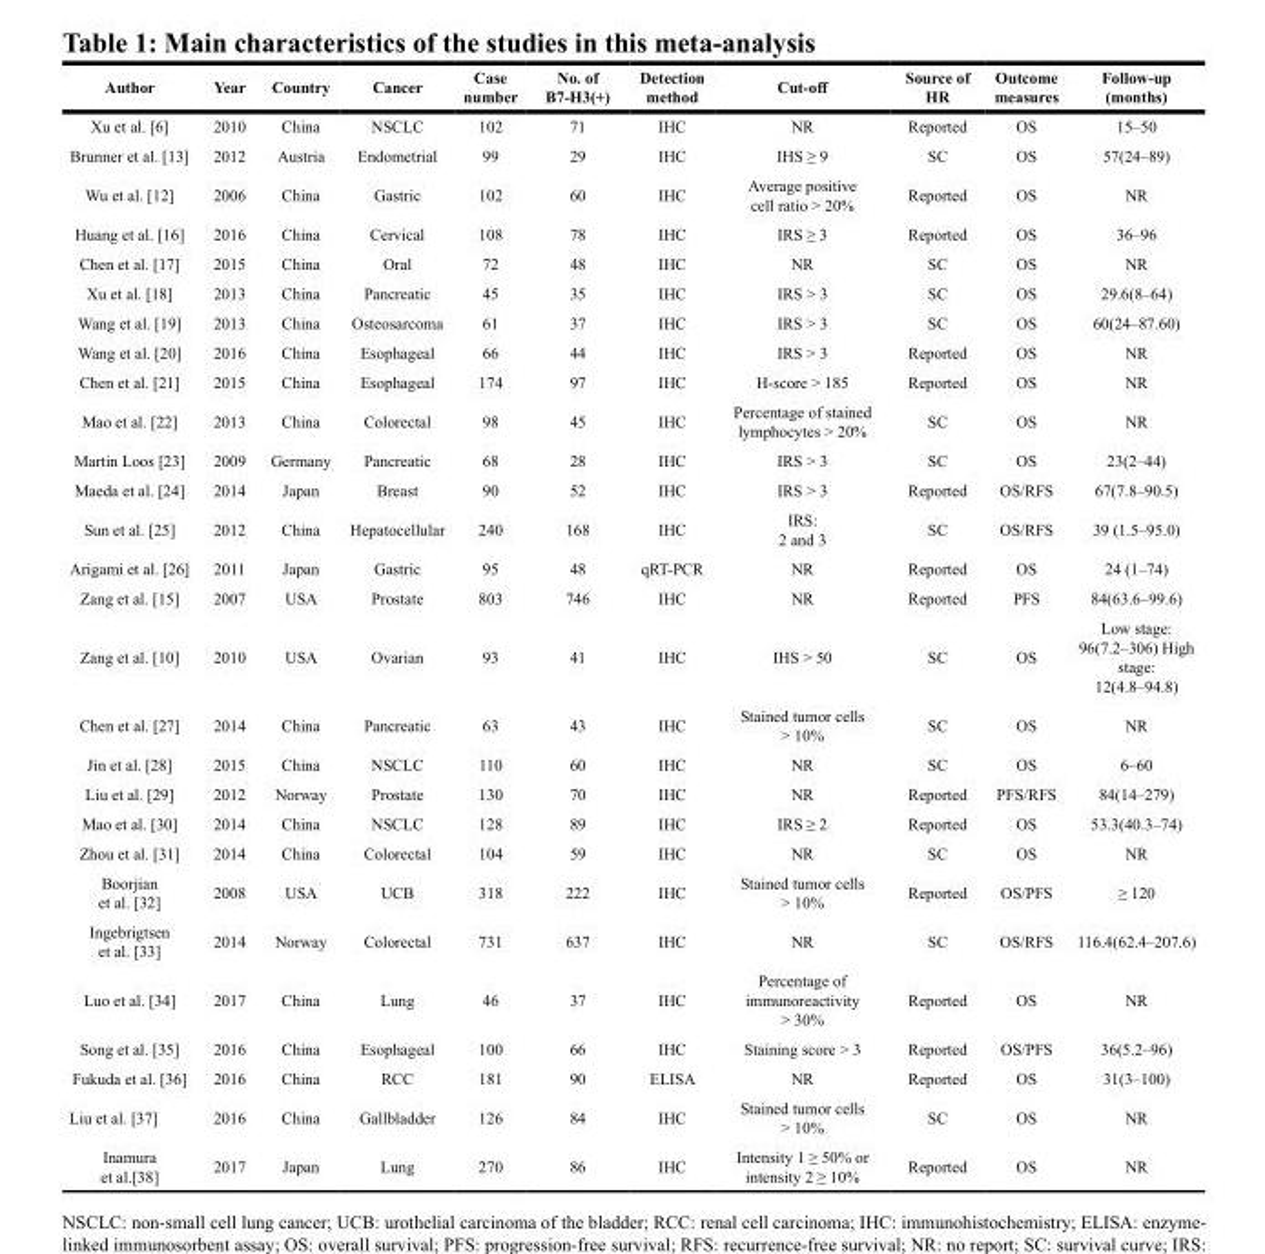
<table><thead><tr><td>Author</td><td>Year</td><td>Country</td><td>Cancer</td><td>Case number</td><td>No. of B7-H3(+)</td><td>Detection method</td><td>Cut-off</td><td>Source of HR</td><td>Outcome measures</td><td>Follow-up (months)</td></tr></thead><tbody><tr><td>Xu et al. [6]</td><td>2010</td><td>China</td><td>NSCLC</td><td>102</td><td>71</td><td>IHC</td><td>NR</td><td>Reported</td><td>OS</td><td>15–50</td></tr><tr><td>Brunner et al. [13]</td><td>2012</td><td>Austria</td><td>Endometrial</td><td>99</td><td>29</td><td>IHC</td><td>IHS ≥ 9</td><td>SC</td><td>OS</td><td>57(24–89)</td></tr><tr><td>Wu et al. [12]</td><td>2006</td><td>China</td><td>Gastric</td><td>102</td><td>60</td><td>IHC</td><td>Average positive cell ratio &gt; 20%</td><td>Reported</td><td>OS</td><td>NR</td></tr><tr><td>Huang et al. [16]</td><td>2016</td><td>China</td><td>Cervical</td><td>108</td><td>78</td><td>IHC</td><td>IRS ≥ 3</td><td>Reported</td><td>OS</td><td>36–96</td></tr><tr><td>Chen et al. [17]</td><td>2015</td><td>China</td><td>Oral</td><td>72</td><td>48</td><td>IHC</td><td>NR</td><td>SC</td><td>OS</td><td>NR</td></tr><tr><td>Xu et al. [18]</td><td>2013</td><td>China</td><td>Pancreatic</td><td>45</td><td>35</td><td>IHC</td><td>IRS &gt; 3</td><td>SC</td><td>OS</td><td>29.6(8–64)</td></tr><tr><td>Wang et al. [19]</td><td>2013</td><td>China</td><td>Osteosarcoma</td><td>61</td><td>37</td><td>IHC</td><td>IRS &gt; 3</td><td>SC</td><td>OS</td><td>60(24–87.60)</td></tr><tr><td>Wang et al. [20]</td><td>2016</td><td>China</td><td>Esophageal</td><td>66</td><td>44</td><td>IHC</td><td>IRS &gt; 3</td><td>Reported</td><td>OS</td><td>NR</td></tr><tr><td>Chen et al. [21]</td><td>2015</td><td>China</td><td>Esophageal</td><td>174</td><td>97</td><td>IHC</td><td>H-score &gt; 185</td><td>Reported</td><td>OS</td><td>NR</td></tr><tr><td>Mao et al. [22]</td><td>2013</td><td>China</td><td>Colorectal</td><td>98</td><td>45</td><td>IHC</td><td>Percentage of stained lymphocytes &gt; 20%</td><td>SC</td><td>OS</td><td>NR</td></tr><tr><td>Martin Loos [23]</td><td>2009</td><td>Germany</td><td>Pancreatic</td><td>68</td><td>28</td><td>IHC</td><td>IRS &gt; 3</td><td>SC</td><td>OS</td><td>23(2–44)</td></tr><tr><td>Maeda et al. [24]</td><td>2014</td><td>Japan</td><td>Breast</td><td>90</td><td>52</td><td>IHC</td><td>IRS &gt; 3</td><td>Reported</td><td>OS/RFS</td><td>67(7.8–90.5)</td></tr><tr><td>Sun et al. [25]</td><td>2012</td><td>China</td><td>Hepatocellular</td><td>240</td><td>168</td><td>IHC</td><td>IRS: 2 and 3</td><td>SC</td><td>OS/RFS</td><td>39 (1.5–95.0)</td></tr><tr><td>Arigami et al. [26]</td><td>2011</td><td>Japan</td><td>Gastric</td><td>95</td><td>48</td><td>qRT-PCR</td><td>NR</td><td>Reported</td><td>OS</td><td>24 (1–74)</td></tr><tr><td>Zang et al. [15]</td><td>2007</td><td>USA</td><td>Prostate</td><td>803</td><td>746</td><td>IHC</td><td>NR</td><td>Reported</td><td>PFS</td><td>84(63.6–99.6)</td></tr><tr><td>Zang et al. [10]</td><td>2010</td><td>USA</td><td>Ovarian</td><td>93</td><td>41</td><td>IHC</td><td>IHS &gt; 50</td><td>SC</td><td>OS</td><td>Low stage: 96(7.2–306) High stage: 12(4.8–94.8)</td></tr><tr><td>Chen et al. [27]</td><td>2014</td><td>China</td><td>Pancreatic</td><td>63</td><td>43</td><td>IHC</td><td>Stained tumor cells &gt; 10%</td><td>SC</td><td>OS</td><td>NR</td></tr><tr><td>Jin et al. [28]</td><td>2015</td><td>China</td><td>NSCLC</td><td>110</td><td>60</td><td>IHC</td><td>NR</td><td>SC</td><td>OS</td><td>6–60</td></tr><tr><td>Liu et al. [29]</td><td>2012</td><td>Norway</td><td>Prostate</td><td>130</td><td>70</td><td>IHC</td><td>NR</td><td>Reported</td><td>PFS/RFS</td><td>84(14–279)</td></tr><tr><td>Mao et al. [30]</td><td>2014</td><td>China</td><td>NSCLC</td><td>128</td><td>89</td><td>IHC</td><td>IRS ≥ 2</td><td>Reported</td><td>OS</td><td>53.3(40.3–74)</td></tr><tr><td>Zhou et al. [31]</td><td>2014</td><td>China</td><td>Colorectal</td><td>104</td><td>59</td><td>IHC</td><td>NR</td><td>SC</td><td>OS</td><td>NR</td></tr><tr><td>Boorjian et al. [32]</td><td>2008</td><td>USA</td><td>UCB</td><td>318</td><td>222</td><td>IHC</td><td>Stained tumor cells &gt; 10%</td><td>Reported</td><td>OS/PFS</td><td>≥ 120</td></tr><tr><td>Ingebrigtsen et al. [33]</td><td>2014</td><td>Norway</td><td>Colorectal</td><td>731</td><td>637</td><td>IHC</td><td>NR</td><td>SC</td><td>OS/RFS</td><td>116.4(62.4–207.6)</td></tr><tr><td>Luo et al. [34]</td><td>2017</td><td>China</td><td>Lung</td><td>46</td><td>37</td><td>IHC</td><td>Percentage of immunoreactivity &gt; 30%</td><td>Reported</td><td>OS</td><td>NR</td></tr><tr><td>Song et al. [35]</td><td>2016</td><td>China</td><td>Esophageal</td><td>100</td><td>66</td><td>IHC</td><td>Staining score &gt; 3</td><td>Reported</td><td>OS/PFS</td><td>36(5.2–96)</td></tr><tr><td>Fukuda et al. [36]</td><td>2016</td><td>China</td><td>RCC</td><td>181</td><td>90</td><td>ELISA</td><td>NR</td><td>Reported</td><td>OS</td><td>31(3–100)</td></tr><tr><td>Liu et al. [37]</td><td>2016</td><td>China</td><td>Gallbladder</td><td>126</td><td>84</td><td>IHC</td><td>Stained tumor cells &gt; 10%</td><td>SC</td><td>OS</td><td>NR</td></tr><tr><td>Inamura et al.[38]</td><td>2017</td><td>Japan</td><td>Lung</td><td>270</td><td>86</td><td>IHC</td><td>Intensity 1 ≥ 50% or intensity 2 ≥ 10%</td><td>Reported</td><td>OS</td><td>NR</td></tr></tbody></table>